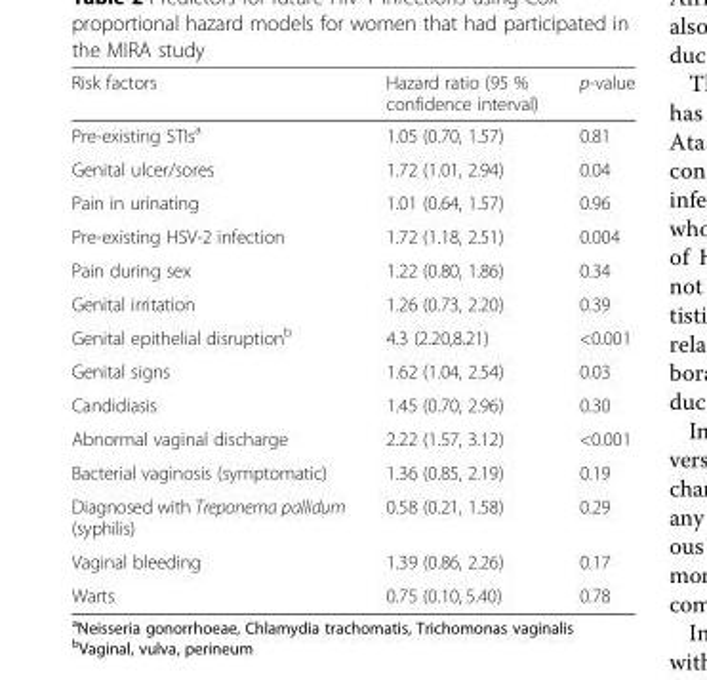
<table><thead><tr><td>Risk factors</td><td>Hazard ratio (95 % confidence interval)</td><td>p-value</td></tr></thead><tbody><tr><td>Pre-existing STIs<sup>a</sup></td><td>1.05 (0.70, 1.57)</td><td>0.81</td></tr><tr><td>Genital ulcer/sores</td><td>1.72 (1.01, 2.94)</td><td>0.04</td></tr><tr><td>Pain in urinating</td><td>1.01 (0.64, 1.57)</td><td>0.96</td></tr><tr><td>Pre-existing HSV-2 infection</td><td>1.72 (1.18, 2.51)</td><td>0.004</td></tr><tr><td>Pain during sex</td><td>1.22 (0.80, 1.86)</td><td>0.34</td></tr><tr><td>Genital irritation</td><td>1.26 (0.73, 2.20)</td><td>0.39</td></tr><tr><td>Genital epithelial disruption<sup>b</sup></td><td>4.3 (2.20,8.21)</td><td>&lt;0.001</td></tr><tr><td>Genital signs</td><td>1.62 (1.04, 2.54)</td><td>0.03</td></tr><tr><td>Candidiasis</td><td>1.45 (0.70, 2.96)</td><td>0.30</td></tr><tr><td>Abnormal vaginal discharge</td><td>2.22 (1.57, 3.12)</td><td>&lt;0.001</td></tr><tr><td>Bacterial vaginosis (symptomatic)</td><td>1.36 (0.85, 2.19)</td><td>0.19</td></tr><tr><td>Diagnosed with Treponema pallidum (syphilis)</td><td>0.58 (0.21, 1.58)</td><td>0.29</td></tr><tr><td>Vaginal bleeding</td><td>1.39 (0.86, 2.26)</td><td>0.17</td></tr><tr><td>Warts</td><td>0.75 (0.10, 5.40)</td><td>0.78</td></tr></tbody></table>